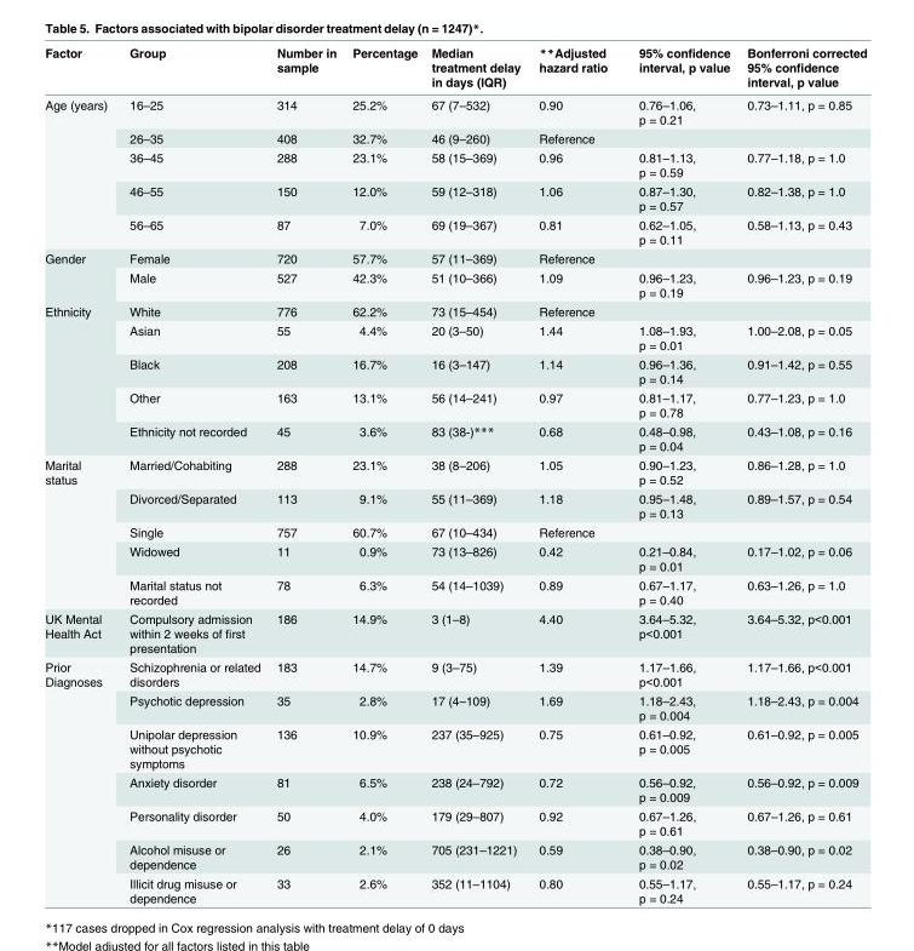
<table><thead><tr><td>Factor</td><td>Group</td><td>Number in sample</td><td>Percentage</td><td>Median treatment delay in days (IQR)</td><td>**Adjusted hazard ratio</td><td>95% confidence interval, p value</td><td>Bonferroni corrected 95% confidence interval, p value</td></tr></thead><tbody><tr><td rowspan="5">Age (years)</td><td>16–25</td><td>314</td><td>25.2%</td><td>67 (7–532)</td><td>0.90</td><td>0.76–1.06, p = 0.21</td><td>0.73–1.11, p = 0.85</td></tr><tr><td>26–35</td><td>408</td><td>32.7%</td><td>46 (9–260)</td><td>Reference</td><td></td><td></td></tr><tr><td>36–45</td><td>288</td><td>23.1%</td><td>58 (15–369)</td><td>0.96</td><td>0.81–1.13, p = 0.59</td><td>0.77–1.18, p = 1.0</td></tr><tr><td>46–55</td><td>150</td><td>12.0%</td><td>59 (12–318)</td><td>1.06</td><td>0.87–1.30, p = 0.57</td><td>0.82–1.38, p = 1.0</td></tr><tr><td>56–65</td><td>87</td><td>7.0%</td><td>69 (19–367)</td><td>0.81</td><td>0.62–1.05, p = 0.11</td><td>0.58–1.13, p = 0.43</td></tr><tr><td rowspan="2">Gender</td><td>Female</td><td>720</td><td>57.7%</td><td>57 (11–369)</td><td>Reference</td><td></td><td></td></tr><tr><td>Male</td><td>527</td><td>42.3%</td><td>51 (10–366)</td><td>1.09</td><td>0.96–1.23, p = 0.19</td><td>0.96–1.23, p = 0.19</td></tr><tr><td rowspan="5">Ethnicity</td><td>White</td><td>776</td><td>62.2%</td><td>73 (15–454)</td><td>Reference</td><td></td><td></td></tr><tr><td>Asian</td><td>55</td><td>4.4%</td><td>20 (3–50)</td><td>1.44</td><td>1.08–1.93, p = 0.01</td><td>1.00–2.08, p = 0.05</td></tr><tr><td>Black</td><td>208</td><td>16.7%</td><td>16 (3–147)</td><td>1.14</td><td>0.96–1.36, p = 0.14</td><td>0.91–1.42, p = 0.55</td></tr><tr><td>Other</td><td>163</td><td>13.1%</td><td>56 (14–241)</td><td>0.97</td><td>0.81–1.17, p = 0.78</td><td>0.77–1.23, p = 1.0</td></tr><tr><td>Ethnicity not recorded</td><td>45</td><td>3.6%</td><td>83 (38-)***</td><td>0.68</td><td>0.48–0.98, p = 0.04</td><td>0.43–1.08, p = 0.16</td></tr><tr><td rowspan="5">Marital status</td><td>Married/Cohabiting</td><td>288</td><td>23.1%</td><td>38 (8–206)</td><td>1.05</td><td>0.90–1.23, p = 0.52</td><td>0.86–1.28, p = 1.0</td></tr><tr><td>Divorced/Separated</td><td>113</td><td>9.1%</td><td>55 (11–369)</td><td>1.18</td><td>0.95–1.48, p = 0.13</td><td>0.89–1.57, p = 0.54</td></tr><tr><td>Single</td><td>757</td><td>60.7%</td><td>67 (10–434)</td><td>Reference</td><td></td><td></td></tr><tr><td>Widowed</td><td>11</td><td>0.9%</td><td>73 (13–826)</td><td>0.42</td><td>0.21–0.84, p = 0.01</td><td>0.17–1.02, p = 0.06</td></tr><tr><td>Marital status not recorded</td><td>78</td><td>6.3%</td><td>54 (14–1039)</td><td>0.89</td><td>0.67–1.17, p = 0.40</td><td>0.63–1.26, p = 1.0</td></tr><tr><td>UK Mental Health Act</td><td>Compulsory admission within 2 weeks of first presentation</td><td>186</td><td>14.9%</td><td>3 (1–8)</td><td>4.40</td><td>3.64–5.32, p&lt;0.001</td><td>3.64–5.32, p&lt;0.001</td></tr><tr><td rowspan="7">Prior Diagnoses</td><td>Schizophrenia or related disorders</td><td>183</td><td>14.7%</td><td>9 (3–75)</td><td>1.39</td><td>1.17–1.66, p&lt;0.001</td><td>1.17–1.66, p&lt;0.001</td></tr><tr><td>Psychotic depression</td><td>35</td><td>2.8%</td><td>17 (4–109)</td><td>1.69</td><td>1.18–2.43, p = 0.004</td><td>1.18–2.43, p = 0.004</td></tr><tr><td>Unipolar depression without psychotic symptoms</td><td>136</td><td>10.9%</td><td>237 (35–925)</td><td>0.75</td><td>0.61–0.92, p = 0.005</td><td>0.61–0.92, p = 0.005</td></tr><tr><td>Anxiety disorder</td><td>81</td><td>6.5%</td><td>238 (24–792)</td><td>0.72</td><td>0.56–0.92, p = 0.009</td><td>0.56–0.92, p = 0.009</td></tr><tr><td>Personality disorder</td><td>50</td><td>4.0%</td><td>179 (29–807)</td><td>0.92</td><td>0.67–1.26, p = 0.61</td><td>0.67–1.26, p = 0.61</td></tr><tr><td>Alcohol misuse or dependence</td><td>26</td><td>2.1%</td><td>705 (231–1221)</td><td>0.59</td><td>0.38–0.90, p = 0.02</td><td>0.38–0.90, p = 0.02</td></tr><tr><td>Illicit drug misuse or dependence</td><td>33</td><td>2.6%</td><td>352 (11–1104)</td><td>0.80</td><td>0.55–1.17, p = 0.24</td><td>0.55–1.17, p = 0.24</td></tr></tbody></table>